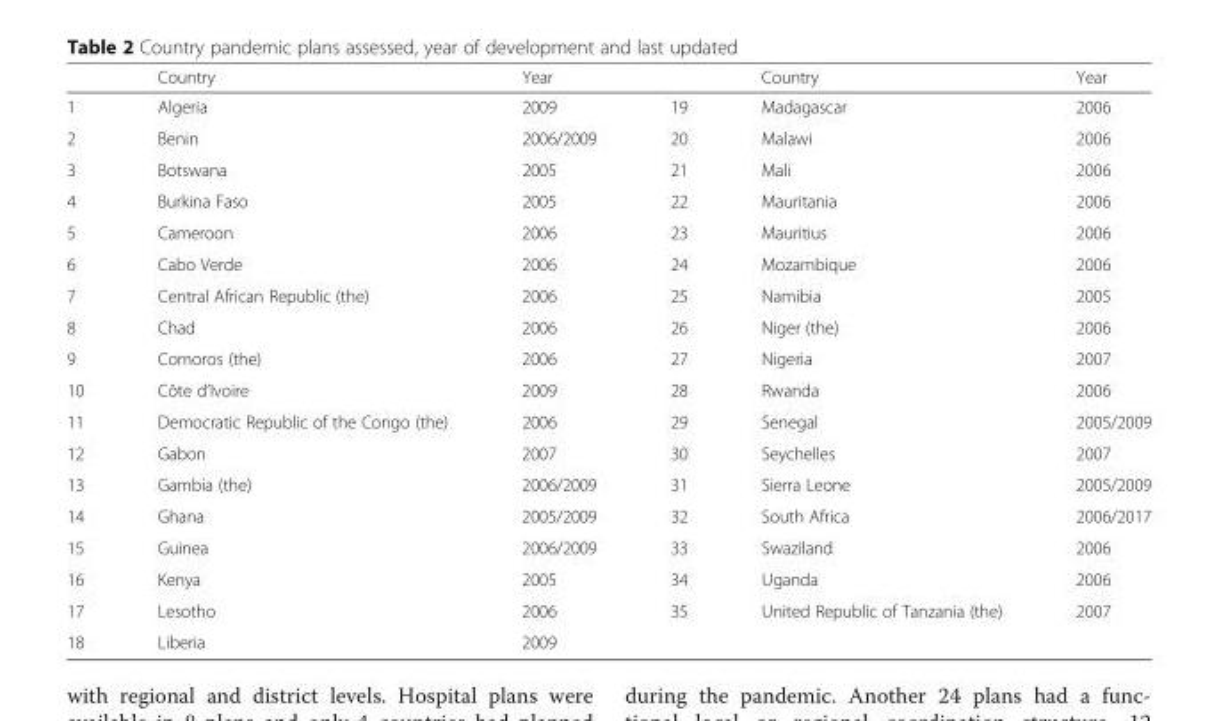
<table><thead><tr><td></td><td>Country</td><td>Year</td><td></td><td>Country</td><td>Year</td></tr></thead><tbody><tr><td>1</td><td>Algeria</td><td>2009</td><td>19</td><td>Madagascar</td><td>2006</td></tr><tr><td>2</td><td>Benin</td><td>2006/2009</td><td>20</td><td>Malawi</td><td>2006</td></tr><tr><td>3</td><td>Botswana</td><td>2005</td><td>21</td><td>Mali</td><td>2006</td></tr><tr><td>4</td><td>Burkina Faso</td><td>2005</td><td>22</td><td>Mauritania</td><td>2006</td></tr><tr><td>5</td><td>Cameroon</td><td>2006</td><td>23</td><td>Mauritius</td><td>2006</td></tr><tr><td>6</td><td>Cabo Verde</td><td>2006</td><td>24</td><td>Mozambique</td><td>2006</td></tr><tr><td>7</td><td>Central African Republic (the)</td><td>2006</td><td>25</td><td>Namibia</td><td>2005</td></tr><tr><td>8</td><td>Chad</td><td>2006</td><td>26</td><td>Niger (the)</td><td>2006</td></tr><tr><td>9</td><td>Comoros (the)</td><td>2006</td><td>27</td><td>Nigeria</td><td>2007</td></tr><tr><td>10</td><td>Côte d’Ivoire</td><td>2009</td><td>28</td><td>Rwanda</td><td>2006</td></tr><tr><td>11</td><td>Democratic Republic of the Congo (the)</td><td>2006</td><td>29</td><td>Senegal</td><td>2005/2009</td></tr><tr><td>12</td><td>Gabon</td><td>2007</td><td>30</td><td>Seychelles</td><td>2007</td></tr><tr><td>13</td><td>Gambia (the)</td><td>2006/2009</td><td>31</td><td>Sierra Leone</td><td>2005/2009</td></tr><tr><td>14</td><td>Ghana</td><td>2005/2009</td><td>32</td><td>South Africa</td><td>2006/2017</td></tr><tr><td>15</td><td>Guinea</td><td>2006/2009</td><td>33</td><td>Swaziland</td><td>2006</td></tr><tr><td>16</td><td>Kenya</td><td>2005</td><td>34</td><td>Uganda</td><td>2006</td></tr><tr><td>17</td><td>Lesotho</td><td>2006</td><td>35</td><td>United Republic of Tanzania (the)</td><td>2007</td></tr><tr><td>18</td><td>Liberia</td><td>2009</td><td></td><td></td><td></td></tr></tbody></table>